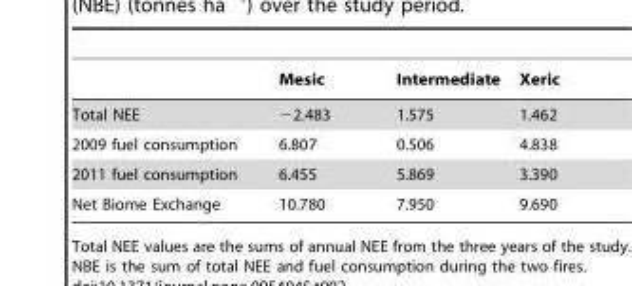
<table><thead><tr><td></td><td>Mesic</td><td>Intermediate</td><td>Xeric</td></tr></thead><tbody><tr><td>Total NEE</td><td>−2.483</td><td>1.575</td><td>1.462</td></tr><tr><td>2009 fuel consumption</td><td>6.807</td><td>0.506</td><td>4.838</td></tr><tr><td>2011 fuel consumption</td><td>6.455</td><td>5.869</td><td>3.390</td></tr><tr><td>Net Biome Exchange</td><td>10.780</td><td>7.950</td><td>9.690</td></tr></tbody></table>